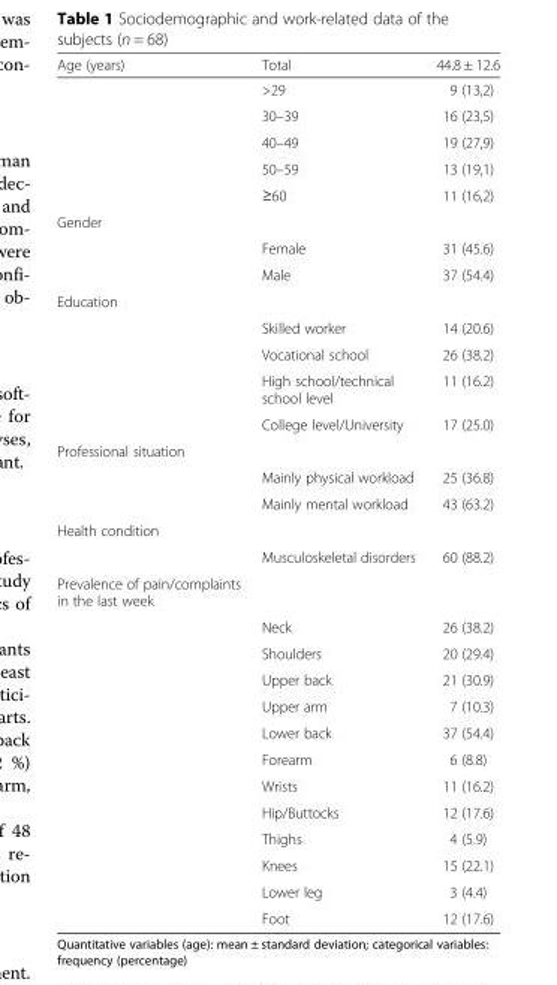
<table><thead><tr><td>Age (years)</td><td>Total</td><td>44.8 ± 12.6</td></tr></thead><tbody><tr><td></td><td>&gt;29</td><td>9 (13,2)</td></tr><tr><td></td><td>30–39</td><td>16 (23,5)</td></tr><tr><td></td><td>40–49</td><td>19 (27,9)</td></tr><tr><td></td><td>50–59</td><td>13 (19,1)</td></tr><tr><td></td><td>≥60</td><td>11 (16,2)</td></tr><tr><td colspan="3">Gender</td></tr><tr><td></td><td>Female</td><td>31 (45.6)</td></tr><tr><td></td><td>Male</td><td>37 (54.4)</td></tr><tr><td colspan="3">Education</td></tr><tr><td></td><td>Skilled worker</td><td>14 (20.6)</td></tr><tr><td></td><td>Vocational school</td><td>26 (38.2)</td></tr><tr><td></td><td>High school/technical school level</td><td>11 (16.2)</td></tr><tr><td></td><td>College level/University</td><td>17 (25.0)</td></tr><tr><td colspan="3">Professional situation</td></tr><tr><td></td><td>Mainly physical workload</td><td>25 (36.8)</td></tr><tr><td></td><td>Mainly mental workload</td><td>43 (63.2)</td></tr><tr><td colspan="3">Health condition</td></tr><tr><td></td><td>Musculoskeletal disorders</td><td>60 (88.2)</td></tr><tr><td colspan="3">Prevalence of pain/complaints in the last week</td></tr><tr><td></td><td>Neck</td><td>26 (38.2)</td></tr><tr><td></td><td>Shoulders</td><td>20 (29.4)</td></tr><tr><td></td><td>Upper back</td><td>21 (30.9)</td></tr><tr><td></td><td>Upper arm</td><td>7 (10.3)</td></tr><tr><td></td><td>Lower back</td><td>37 (54.4)</td></tr><tr><td></td><td>Forearm</td><td>6 (8.8)</td></tr><tr><td></td><td>Wrists</td><td>11 (16.2)</td></tr><tr><td></td><td>Hip/Buttocks</td><td>12 (17.6)</td></tr><tr><td></td><td>Thighs</td><td>4 (5.9)</td></tr><tr><td></td><td>Knees</td><td>15 (22.1)</td></tr><tr><td></td><td>Lower leg</td><td>3 (4.4)</td></tr><tr><td></td><td>Foot</td><td>12 (17.6)</td></tr></tbody></table>